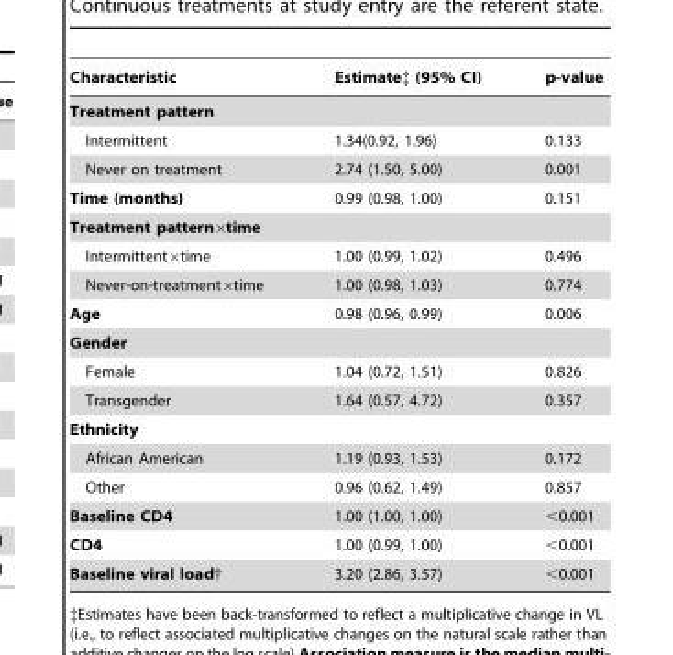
<table><thead><tr><td>Characteristic</td><td>Estimate‡ (95% CI)</td><td>p-value</td></tr></thead><tbody><tr><td colspan="3">Treatment pattern</td></tr><tr><td>Intermittent</td><td>1.34(0.92, 1.96)</td><td>0.133</td></tr><tr><td>Never on treatment</td><td>2.74 (1.50, 5.00)</td><td>0.001</td></tr><tr><td>Time (months)</td><td>0.99 (0.98, 1.00)</td><td>0.151</td></tr><tr><td colspan="3">Treatment pattern×time</td></tr><tr><td>Intermittent×time</td><td>1.00 (0.99, 1.02)</td><td>0.496</td></tr><tr><td>Never-on-treatment×time</td><td>1.00 (0.98, 1.03)</td><td>0.774</td></tr><tr><td>Age</td><td>0.98 (0.96, 0.99)</td><td>0.006</td></tr><tr><td colspan="3">Gender</td></tr><tr><td>Female</td><td>1.04 (0.72, 1.51)</td><td>0.826</td></tr><tr><td>Transgender</td><td>1.64 (0.57, 4.72)</td><td>0.357</td></tr><tr><td colspan="3">Ethnicity</td></tr><tr><td>African American</td><td>1.19 (0.93, 1.53)</td><td>0.172</td></tr><tr><td>Other</td><td>0.96 (0.62, 1.49)</td><td>0.857</td></tr><tr><td>Baseline CD4</td><td>1.00 (1.00, 1.00)</td><td>&lt;0.001</td></tr><tr><td>CD4</td><td>1.00 (0.99, 1.00)</td><td>&lt;0.001</td></tr><tr><td>Baseline viral load†</td><td>3.20 (2.86, 3.57)</td><td>&lt;0.001</td></tr></tbody></table>